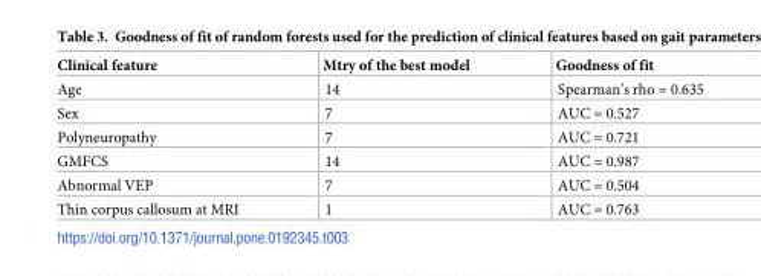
<table><thead><tr><td>Clinical feature</td><td>Mtry of the best model</td><td>Goodness of fit</td></tr></thead><tbody><tr><td>Age</td><td>14</td><td>Spearman’s rho = 0.635</td></tr><tr><td>Sex</td><td>7</td><td>AUC = 0.527</td></tr><tr><td>Polyneuropathy</td><td>7</td><td>AUC = 0.721</td></tr><tr><td>GMFCS</td><td>14</td><td>AUC = 0.987</td></tr><tr><td>Abnormal VEP</td><td>7</td><td>AUC = 0.504</td></tr><tr><td>Thin corpus callosum at MRI</td><td>1</td><td>AUC = 0.763</td></tr></tbody></table>